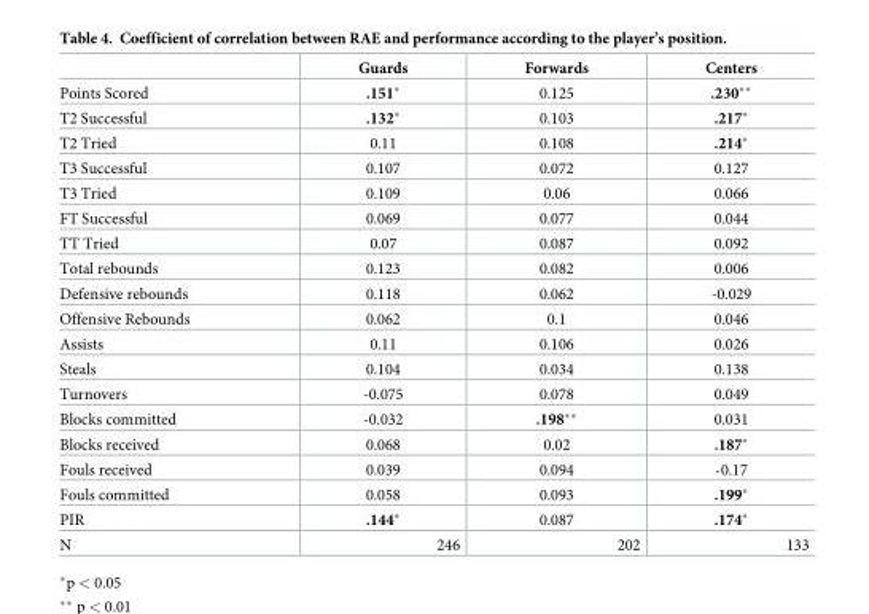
<table><thead><tr><td></td><td>Guards</td><td>Forwards</td><td>Centers</td></tr></thead><tbody><tr><td>Points Scored</td><td>.151*</td><td>0.125</td><td>.230**</td></tr><tr><td>T2 Successful</td><td>.132*</td><td>0.103</td><td>.217*</td></tr><tr><td>T2 Tried</td><td>0.11</td><td>0.108</td><td>.214*</td></tr><tr><td>T3 Successful</td><td>0.107</td><td>0.072</td><td>0.127</td></tr><tr><td>T3 Tried</td><td>0.109</td><td>0.06</td><td>0.066</td></tr><tr><td>FT Successful</td><td>0.069</td><td>0.077</td><td>0.044</td></tr><tr><td>TT Tried</td><td>0.07</td><td>0.087</td><td>0.092</td></tr><tr><td>Total rebounds</td><td>0.123</td><td>0.082</td><td>0.006</td></tr><tr><td>Defensive rebounds</td><td>0.118</td><td>0.062</td><td>-0.029</td></tr><tr><td>Offensive Rebounds</td><td>0.062</td><td>0.1</td><td>0.046</td></tr><tr><td>Assists</td><td>0.11</td><td>0.106</td><td>0.026</td></tr><tr><td>Steals</td><td>0.104</td><td>0.034</td><td>0.138</td></tr><tr><td>Turnovers</td><td>-0.075</td><td>0.078</td><td>0.049</td></tr><tr><td>Blocks committed</td><td>-0.032</td><td>.198**</td><td>0.031</td></tr><tr><td>Blocks received</td><td>0.068</td><td>0.02</td><td>.187*</td></tr><tr><td>Fouls received</td><td>0.039</td><td>0.094</td><td>-0.17</td></tr><tr><td>Fouls committed</td><td>0.058</td><td>0.093</td><td>.199*</td></tr><tr><td>PIR</td><td>.144*</td><td>0.087</td><td>.174*</td></tr><tr><td>N</td><td>246</td><td>202</td><td>133</td></tr></tbody></table>